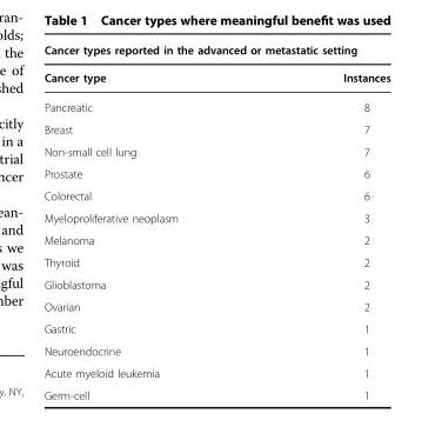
<table><thead><tr><td colspan="2">Cancer types reported in the advanced or metastatic setting</td></tr><tr><td>Cancer type</td><td>Instances</td></tr></thead><tbody><tr><td>Pancreatic</td><td>8</td></tr><tr><td>Breast</td><td>7</td></tr><tr><td>Non-small cell lung</td><td>7</td></tr><tr><td>Prostate</td><td>6</td></tr><tr><td>Colorectal</td><td>6</td></tr><tr><td>Myeloproliferative neoplasm</td><td>3</td></tr><tr><td>Melanoma</td><td>2</td></tr><tr><td>Thyroid</td><td>2</td></tr><tr><td>Glioblastoma</td><td>2</td></tr><tr><td>Ovarian</td><td>2</td></tr><tr><td>Gastric</td><td>1</td></tr><tr><td>Neuroendocrine</td><td>1</td></tr><tr><td>Acute myeloid leukemia</td><td>1</td></tr><tr><td>Germ-cell</td><td>1</td></tr></tbody></table>